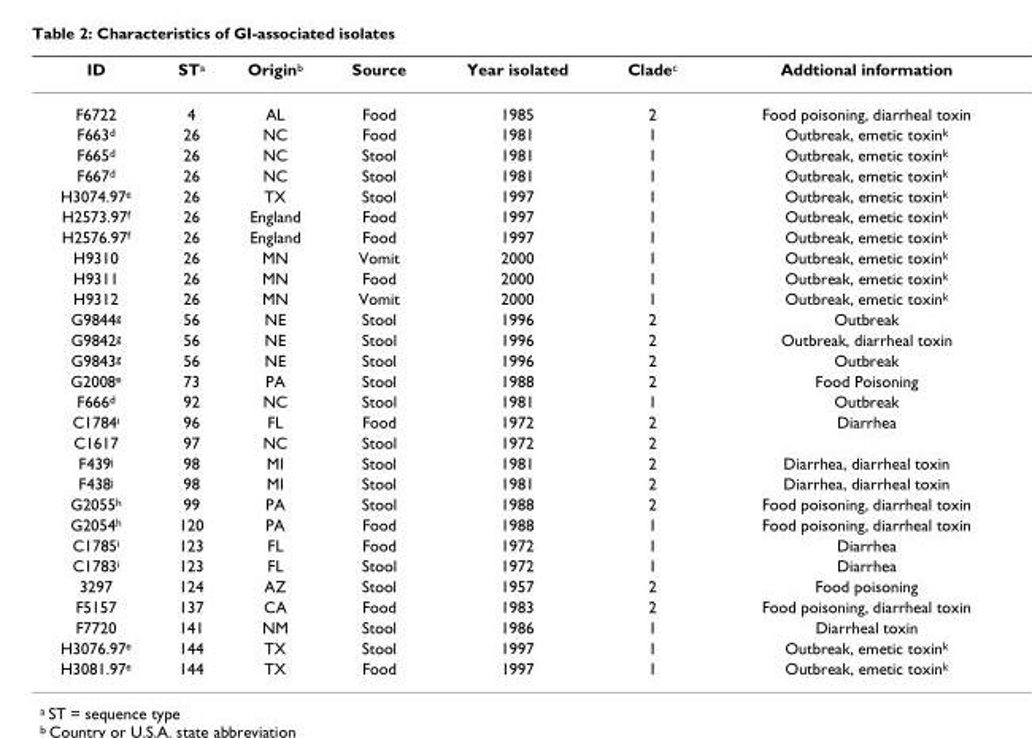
<table><thead><tr><td>ID</td><td>ST<sup>a</sup></td><td>Origin<sup>b</sup></td><td>Source</td><td>Year isolated</td><td>Clade<sup>c</sup></td><td>Addtional information</td></tr></thead><tbody><tr><td>F6722</td><td>4</td><td>AL</td><td>Food</td><td>1985</td><td>2</td><td>Food poisoning, diarrheal toxin</td></tr><tr><td>F663<sup>d</sup></td><td>26</td><td>NC</td><td>Food</td><td>1981</td><td>1</td><td>Outbreak, emetic toxin<sup>k</sup></td></tr><tr><td>F665<sup>d</sup></td><td>26</td><td>NC</td><td>Stool</td><td>1981</td><td>1</td><td>Outbreak, emetic toxin<sup>k</sup></td></tr><tr><td>F667<sup>d</sup></td><td>26</td><td>NC</td><td>Stool</td><td>1981</td><td>1</td><td>Outbreak, emetic toxin<sup>k</sup></td></tr><tr><td>H3074.97<sup>e</sup></td><td>26</td><td>TX</td><td>Stool</td><td>1997</td><td>1</td><td>Outbreak, emetic toxin<sup>k</sup></td></tr><tr><td>H2573.97<sup>f</sup></td><td>26</td><td>England</td><td>Food</td><td>1997</td><td>1</td><td>Outbreak, emetic toxin<sup>k</sup></td></tr><tr><td>H2576.97<sup>f</sup></td><td>26</td><td>England</td><td>Food</td><td>1997</td><td>1</td><td>Outbreak, emetic toxin<sup>k</sup></td></tr><tr><td>H9310</td><td>26</td><td>MN</td><td>Vomit</td><td>2000</td><td>1</td><td>Outbreak, emetic toxin<sup>k</sup></td></tr><tr><td>H9311</td><td>26</td><td>MN</td><td>Food</td><td>2000</td><td>1</td><td>Outbreak, emetic toxin<sup>k</sup></td></tr><tr><td>H9312</td><td>26</td><td>MN</td><td>Vomit</td><td>2000</td><td>1</td><td>Outbreak, emetic toxin<sup>k</sup></td></tr><tr><td>G9844<sup>g</sup></td><td>56</td><td>NE</td><td>Stool</td><td>1996</td><td>2</td><td>Outbreak</td></tr><tr><td>G9842<sup>g</sup></td><td>56</td><td>NE</td><td>Stool</td><td>1996</td><td>2</td><td>Outbreak, diarrheal toxin</td></tr><tr><td>G9843<sup>g</sup></td><td>56</td><td>NE</td><td>Stool</td><td>1996</td><td>2</td><td>Outbreak</td></tr><tr><td>G2008<sup>e</sup></td><td>73</td><td>PA</td><td>Stool</td><td>1988</td><td>2</td><td>Food Poisoning</td></tr><tr><td>F666<sup>d</sup></td><td>92</td><td>NC</td><td>Stool</td><td>1981</td><td>1</td><td>Outbreak</td></tr><tr><td>C1784<sup>i</sup></td><td>96</td><td>FL</td><td>Food</td><td>1972</td><td>2</td><td>Diarrhea</td></tr><tr><td>C1617</td><td>97</td><td>NC</td><td>Stool</td><td>1972</td><td>2</td><td></td></tr><tr><td>F439<sup>j</sup></td><td>98</td><td>MI</td><td>Stool</td><td>1981</td><td>2</td><td>Diarrhea, diarrheal toxin</td></tr><tr><td>F438<sup>j</sup></td><td>98</td><td>MI</td><td>Stool</td><td>1981</td><td>2</td><td>Diarrhea, diarrheal toxin</td></tr><tr><td>G2055<sup>h</sup></td><td>99</td><td>PA</td><td>Stool</td><td>1988</td><td>2</td><td>Food poisoning, diarrheal toxin</td></tr><tr><td>G2054<sup>h</sup></td><td>120</td><td>PA</td><td>Food</td><td>1988</td><td>1</td><td>Food poisoning, diarrheal toxin</td></tr><tr><td>C1785<sup>i</sup></td><td>123</td><td>FL</td><td>Food</td><td>1972</td><td>1</td><td>Diarrhea</td></tr><tr><td>C1783<sup>i</sup></td><td>123</td><td>FL</td><td>Stool</td><td>1972</td><td>1</td><td>Diarrhea</td></tr><tr><td>3297</td><td>124</td><td>AZ</td><td>Stool</td><td>1957</td><td>2</td><td>Food poisoning</td></tr><tr><td>F5157</td><td>137</td><td>CA</td><td>Food</td><td>1983</td><td>2</td><td>Food poisoning, diarrheal toxin</td></tr><tr><td>F7720</td><td>141</td><td>NM</td><td>Stool</td><td>1986</td><td>1</td><td>Diarrheal toxin</td></tr><tr><td>H3076.97<sup>e</sup></td><td>144</td><td>TX</td><td>Stool</td><td>1997</td><td>1</td><td>Outbreak, emetic toxin<sup>k</sup></td></tr><tr><td>H3081.97<sup>e</sup></td><td>144</td><td>TX</td><td>Food</td><td>1997</td><td>1</td><td>Outbreak, emetic toxin<sup>k</sup></td></tr></tbody></table>